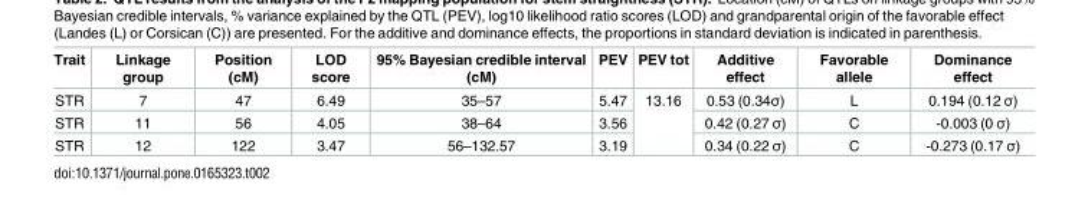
<table><thead><tr><td>Trait</td><td>Linkage group</td><td>Position (cM)</td><td>LOD score</td><td>95% Bayesian credible interval (cM)</td><td>PEV</td><td>PEV tot</td><td>Additive effect</td><td>Favorable allele</td><td>Dominance effect</td></tr></thead><tbody><tr><td>STR</td><td>7</td><td>47</td><td>6.49</td><td>35–57</td><td>5.47</td><td rowspan="3">13.16</td><td>0.53 (0.34σ)</td><td>L</td><td>0.194 (0.12 σ)</td></tr><tr><td>STR</td><td>11</td><td>56</td><td>4.05</td><td>38–64</td><td>3.56</td><td>0.42 (0.27 σ)</td><td>C</td><td>-0.003 (0 σ)</td></tr><tr><td>STR</td><td>12</td><td>122</td><td>3.47</td><td>56–132.57</td><td>3.19</td><td>0.34 (0.22 σ)</td><td>C</td><td>-0.273 (0.17 σ)</td></tr></tbody></table>